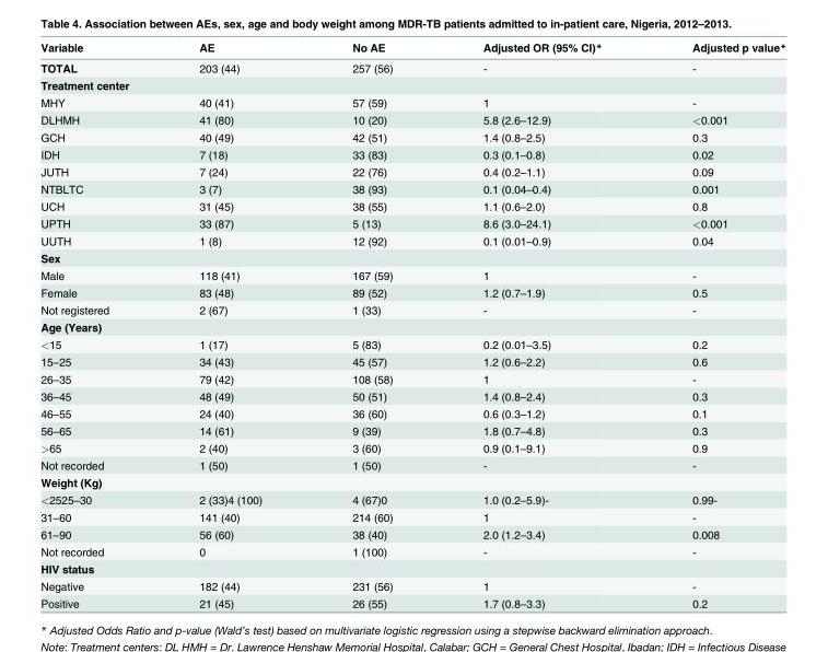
<table><thead><tr><td>Variable</td><td>AE</td><td>No AE</td><td>Adjusted OR (95% CI)*</td><td>Adjusted p value*</td></tr></thead><tbody><tr><td>TOTAL</td><td>203 (44)</td><td>257 (56)</td><td>-</td><td>-</td></tr><tr><td colspan="5">Treatment center</td></tr><tr><td>MHY</td><td>40 (41)</td><td>57 (59)</td><td>1</td><td>-</td></tr><tr><td>DLHMH</td><td>41 (80)</td><td>10 (20)</td><td>5.8 (2.6–12.9)</td><td>&lt;0.001</td></tr><tr><td>GCH</td><td>40 (49)</td><td>42 (51)</td><td>1.4 (0.8–2.5)</td><td>0.3</td></tr><tr><td>IDH</td><td>7 (18)</td><td>33 (83)</td><td>0.3 (0.1–0.8)</td><td>0.02</td></tr><tr><td>JUTH</td><td>7 (24)</td><td>22 (76)</td><td>0.4 (0.2–1.1)</td><td>0.09</td></tr><tr><td>NTBLTC</td><td>3 (7)</td><td>38 (93)</td><td>0.1 (0.04–0.4)</td><td>0.001</td></tr><tr><td>UCH</td><td>31 (45)</td><td>38 (55)</td><td>1.1 (0.6–2.0)</td><td>0.8</td></tr><tr><td>UPTH</td><td>33 (87)</td><td>5 (13)</td><td>8.6 (3.0–24.1)</td><td>&lt;0.001</td></tr><tr><td>UUTH</td><td>1 (8)</td><td>12 (92)</td><td>0.1 (0.01–0.9)</td><td>0.04</td></tr><tr><td colspan="5">Sex</td></tr><tr><td>Male</td><td>118 (41)</td><td>167 (59)</td><td>1</td><td>-</td></tr><tr><td>Female</td><td>83 (48)</td><td>89 (52)</td><td>1.2 (0.7–1.9)</td><td>0.5</td></tr><tr><td>Not registered</td><td>2 (67)</td><td>1 (33)</td><td>-</td><td>-</td></tr><tr><td colspan="5">Age (Years)</td></tr><tr><td>&lt;15</td><td>1 (17)</td><td>5 (83)</td><td>0.2 (0.01–3.5)</td><td>0.2</td></tr><tr><td>15–25</td><td>34 (43)</td><td>45 (57)</td><td>1.2 (0.6–2.2)</td><td>0.6</td></tr><tr><td>26–35</td><td>79 (42)</td><td>108 (58)</td><td>1</td><td>-</td></tr><tr><td>36–45</td><td>48 (49)</td><td>50 (51)</td><td>1.4 (0.8–2.4)</td><td>0.3</td></tr><tr><td>46–55</td><td>24 (40)</td><td>36 (60)</td><td>0.6 (0.3–1.2)</td><td>0.1</td></tr><tr><td>56–65</td><td>14 (61)</td><td>9 (39)</td><td>1.8 (0.7–4.8)</td><td>0.3</td></tr><tr><td>&gt;65</td><td>2 (40)</td><td>3 (60)</td><td>0.9 (0.1–9.1)</td><td>0.9</td></tr><tr><td>Not recorded</td><td>1 (50)</td><td>1 (50)</td><td>-</td><td>-</td></tr><tr><td colspan="5">Weight (Kg)</td></tr><tr><td>&lt;2525–30</td><td>2 (33)4 (100)</td><td>4 (67)0</td><td>1.0 (0.2–5.9)-</td><td>0.99-</td></tr><tr><td>31–60</td><td>141 (40)</td><td>214 (60)</td><td>1</td><td>-</td></tr><tr><td>61–90</td><td>56 (60)</td><td>38 (40)</td><td>2.0 (1.2–3.4)</td><td>0.008</td></tr><tr><td>Not recorded</td><td>0</td><td>1 (100)</td><td>-</td><td>-</td></tr><tr><td colspan="5">HIV status</td></tr><tr><td>Negative</td><td>182 (44)</td><td>231 (56)</td><td>1</td><td>-</td></tr><tr><td>Positive</td><td>21 (45)</td><td>26 (55)</td><td>1.7 (0.8–3.3)</td><td>0.2</td></tr></tbody></table>